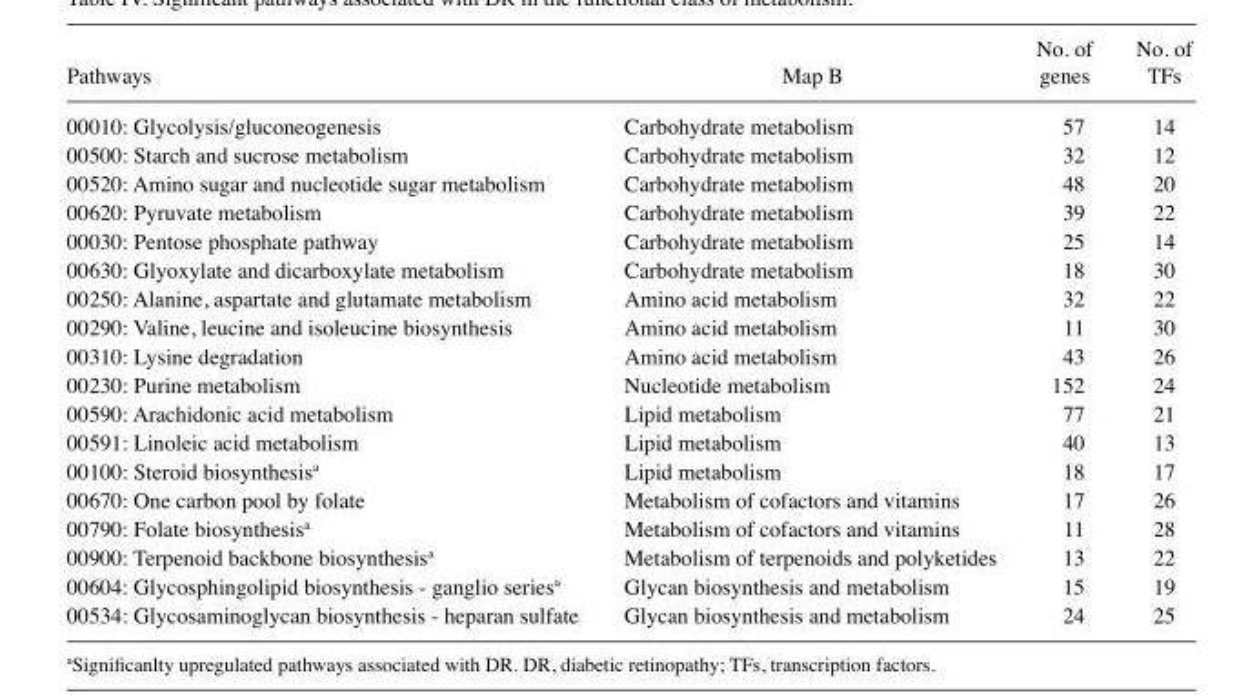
<table><thead><tr><td>Pathways</td><td>Map B</td><td>genes</td><td>TFs</td></tr></thead><tbody><tr><td>00010: Glycolysis/gluconeogenesis</td><td>Carbohydrate metabolism</td><td>57</td><td>14</td></tr><tr><td>00500: Starch and sucrose metabolism</td><td>Carbohydrate metabolism</td><td>32</td><td>12</td></tr><tr><td>00520: Amino sugar and nucleotide sugar metabolism</td><td>Carbohydrate metabolism</td><td>48</td><td>20</td></tr><tr><td>00620: Pyruvate metabolism</td><td>Carbohydrate metabolism</td><td>39</td><td>22</td></tr><tr><td>00030: Pentose phosphate pathway</td><td>Carbohydrate metabolism</td><td>25</td><td>14</td></tr><tr><td>00630: Glyoxylate and dicarboxylate metabolism</td><td>Carbohydrate metabolism</td><td>18</td><td>30</td></tr><tr><td>00250: Alanine, aspartate and glutamate metabolism</td><td>Amino acid metabolism</td><td>32</td><td>22</td></tr><tr><td>00290: Valine, leucine and isoleucine biosynthesis</td><td>Amino acid metabolism</td><td>11</td><td>30</td></tr><tr><td>00310: Lysine degradation</td><td>Amino acid metabolism</td><td>43</td><td>26</td></tr><tr><td>00230: Purine metabolism</td><td>Nucleotide metabolism</td><td>152</td><td>24</td></tr><tr><td>00590: Arachidonic acid metabolism</td><td>Lipid metabolism</td><td>77</td><td>21</td></tr><tr><td>00591: Linoleic acid metabolism</td><td>Lipid metabolism</td><td>40</td><td>13</td></tr><tr><td>00100: Steroid biosynthesis<sup>a</sup></td><td>Lipid metabolism</td><td>18</td><td>17</td></tr><tr><td>00670: One carbon pool by folate</td><td>Metabolism of cofactors and vitamins</td><td>17</td><td>26</td></tr><tr><td>00790: Folate biosynthesis<sup>a</sup></td><td>Metabolism of cofactors and vitamins</td><td>11</td><td>28</td></tr><tr><td>00900: Terpenoid backbone biosynthesis<sup>a</sup></td><td>Metabolism of terpenoids and polyketides</td><td>13</td><td>22</td></tr><tr><td>00604: Glycosphingolipid biosynthesis - ganglio series<sup>a</sup></td><td>Glycan biosynthesis and metabolism</td><td>15</td><td>19</td></tr><tr><td>00534: Glycosaminoglycan biosynthesis - heparan sulfate</td><td>Glycan biosynthesis and metabolism</td><td>24</td><td>25</td></tr></tbody></table>